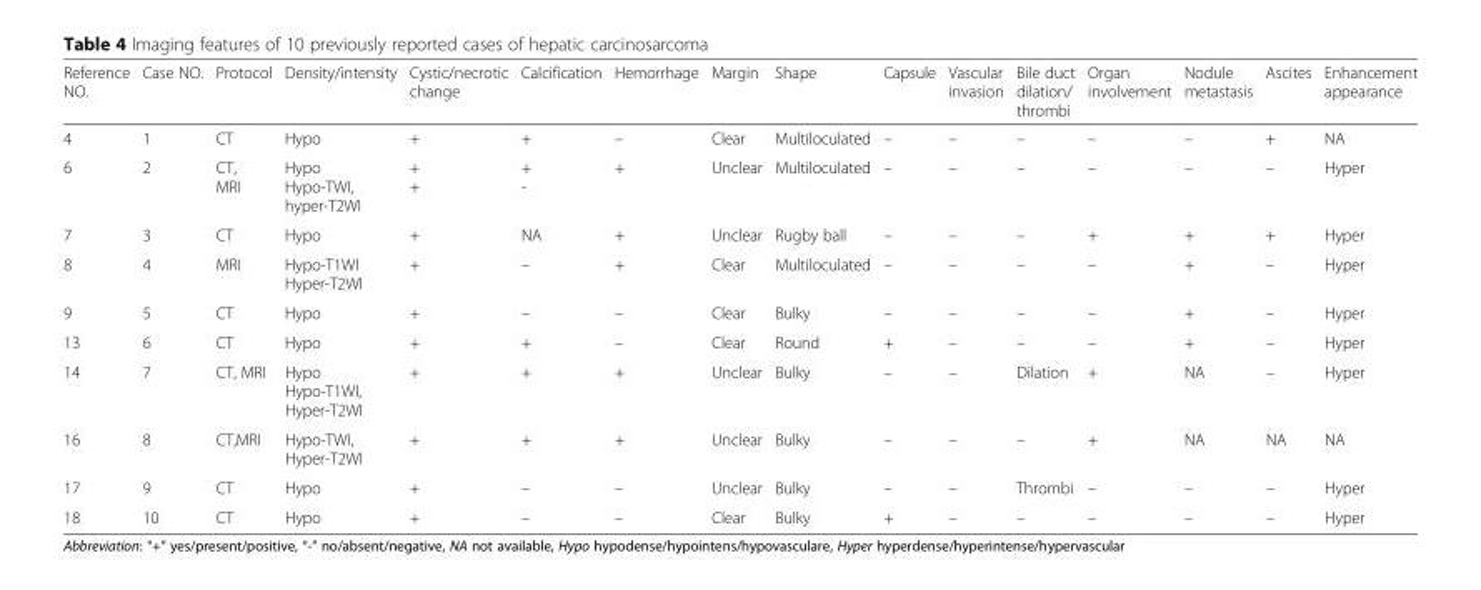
<table><thead><tr><td>Reference NO.</td><td>Case NO.</td><td>Protocol</td><td>Density/intensity</td><td>Cystic/necrotic change</td><td>Calcification</td><td>Hemorrhage</td><td>Margin</td><td>Shape</td><td>Capsule</td><td>Vascular invasion</td><td>Bile duct dilation/ thrombi</td><td>Organ involvement</td><td>Nodule metastasis</td><td>Ascites</td><td>Enhancement appearance</td></tr></thead><tbody><tr><td>4</td><td>1</td><td>CT</td><td>Hypo</td><td>+</td><td>+</td><td>–</td><td>Clear</td><td>Multiloculated</td><td>–</td><td>–</td><td>–</td><td>–</td><td>–</td><td>+</td><td>NA</td></tr><tr><td>6</td><td>2</td><td>CT, MRI</td><td>Hypo Hypo-TWI, hyper-T2WI</td><td>+ +</td><td>+ -</td><td>+</td><td>Unclear</td><td>Multiloculated</td><td>–</td><td>–</td><td>–</td><td>–</td><td>–</td><td>–</td><td>Hyper</td></tr><tr><td>7</td><td>3</td><td>CT</td><td>Hypo</td><td>+</td><td>NA</td><td>+</td><td>Unclear</td><td>Rugby ball</td><td>–</td><td>–</td><td>–</td><td>+</td><td>+</td><td>+</td><td>Hyper</td></tr><tr><td>8</td><td>4</td><td>MRI</td><td>Hypo-T1WI Hyper-T2WI</td><td>+</td><td>–</td><td>+</td><td>Clear</td><td>Multiloculated</td><td>–</td><td>–</td><td>–</td><td>–</td><td>+</td><td>–</td><td>Hyper</td></tr><tr><td>9</td><td>5</td><td>CT</td><td>Hypo</td><td>+</td><td>–</td><td>–</td><td>Clear</td><td>Bulky</td><td>–</td><td>–</td><td>–</td><td>–</td><td>+</td><td>–</td><td>Hyper</td></tr><tr><td>13</td><td>6</td><td>CT</td><td>Hypo</td><td>+</td><td>+</td><td>–</td><td>Clear</td><td>Round</td><td>+</td><td>–</td><td>–</td><td>–</td><td>+</td><td>–</td><td>Hyper</td></tr><tr><td>14</td><td>7</td><td>CT, MRI</td><td>Hypo Hypo-T1WI, Hyper-T2WI</td><td>+</td><td>+</td><td>+</td><td>Unclear</td><td>Bulky</td><td>–</td><td>–</td><td>Dilation</td><td>+</td><td>NA</td><td>–</td><td>Hyper</td></tr><tr><td>16</td><td>8</td><td>CT,MRI</td><td>Hypo-TWI, Hyper-T2WI</td><td>+</td><td>+</td><td>+</td><td>Unclear</td><td>Bulky</td><td>–</td><td>–</td><td>–</td><td>+</td><td>NA</td><td>NA</td><td>NA</td></tr><tr><td>17</td><td>9</td><td>CT</td><td>Hypo</td><td>+</td><td>–</td><td>–</td><td>Unclear</td><td>Bulky</td><td>–</td><td>–</td><td>Thrombi</td><td>–</td><td>–</td><td>–</td><td>Hyper</td></tr><tr><td>18</td><td>10</td><td>CT</td><td>Hypo</td><td>+</td><td>–</td><td>–</td><td>Clear</td><td>Bulky</td><td>+</td><td>–</td><td>–</td><td>–</td><td>–</td><td>–</td><td>Hyper</td></tr></tbody></table>